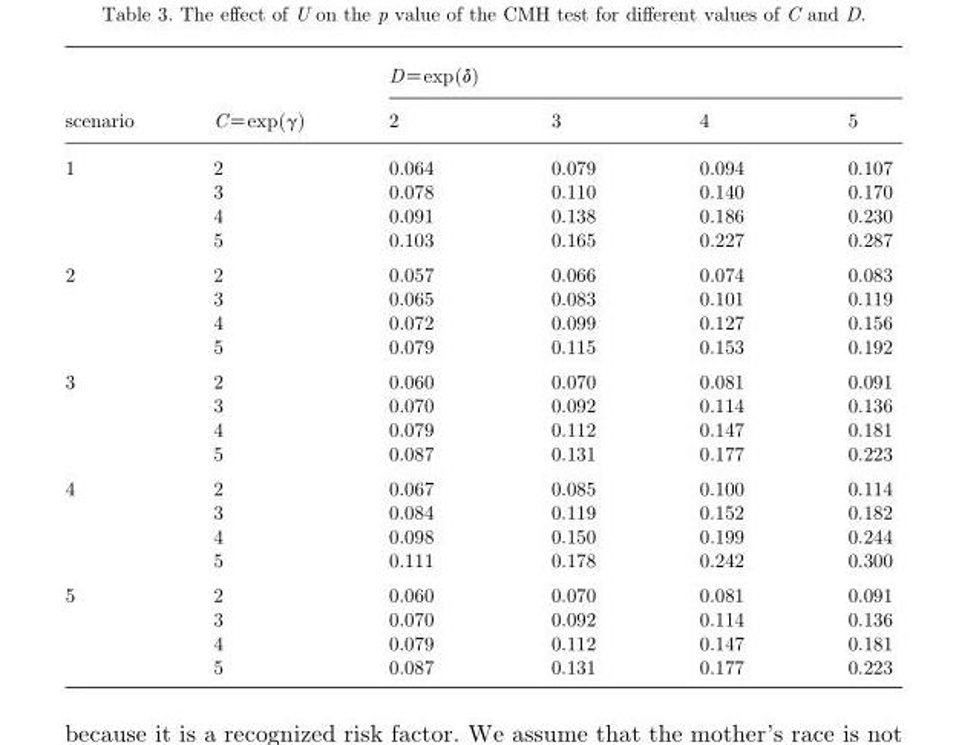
<table><thead><tr><td rowspan="2">scenario</td><td rowspan="2">C=exp(γ)</td><td colspan="4">D=exp(δ)</td></tr><tr><td>2</td><td>3</td><td>4</td><td>5</td></tr></thead><tbody><tr><td rowspan="4">1</td><td>2</td><td>0.064</td><td>0.079</td><td>0.094</td><td>0.107</td></tr><tr><td>3</td><td>0.078</td><td>0.110</td><td>0.140</td><td>0.170</td></tr><tr><td>4</td><td>0.091</td><td>0.138</td><td>0.186</td><td>0.230</td></tr><tr><td>5</td><td>0.103</td><td>0.165</td><td>0.227</td><td>0.287</td></tr><tr><td rowspan="4">2</td><td>2</td><td>0.057</td><td>0.066</td><td>0.074</td><td>0.083</td></tr><tr><td>3</td><td>0.065</td><td>0.083</td><td>0.101</td><td>0.119</td></tr><tr><td>4</td><td>0.072</td><td>0.099</td><td>0.127</td><td>0.156</td></tr><tr><td>5</td><td>0.079</td><td>0.115</td><td>0.153</td><td>0.192</td></tr><tr><td rowspan="4">3</td><td>2</td><td>0.060</td><td>0.070</td><td>0.081</td><td>0.091</td></tr><tr><td>3</td><td>0.070</td><td>0.092</td><td>0.114</td><td>0.136</td></tr><tr><td>4</td><td>0.079</td><td>0.112</td><td>0.147</td><td>0.181</td></tr><tr><td>5</td><td>0.087</td><td>0.131</td><td>0.177</td><td>0.223</td></tr><tr><td rowspan="4">4</td><td>2</td><td>0.067</td><td>0.085</td><td>0.100</td><td>0.114</td></tr><tr><td>3</td><td>0.084</td><td>0.119</td><td>0.152</td><td>0.182</td></tr><tr><td>4</td><td>0.098</td><td>0.150</td><td>0.199</td><td>0.244</td></tr><tr><td>5</td><td>0.111</td><td>0.178</td><td>0.242</td><td>0.300</td></tr><tr><td rowspan="4">5</td><td>2</td><td>0.060</td><td>0.070</td><td>0.081</td><td>0.091</td></tr><tr><td>3</td><td>0.070</td><td>0.092</td><td>0.114</td><td>0.136</td></tr><tr><td>4</td><td>0.079</td><td>0.112</td><td>0.147</td><td>0.181</td></tr><tr><td>5</td><td>0.087</td><td>0.131</td><td>0.177</td><td>0.223</td></tr></tbody></table>